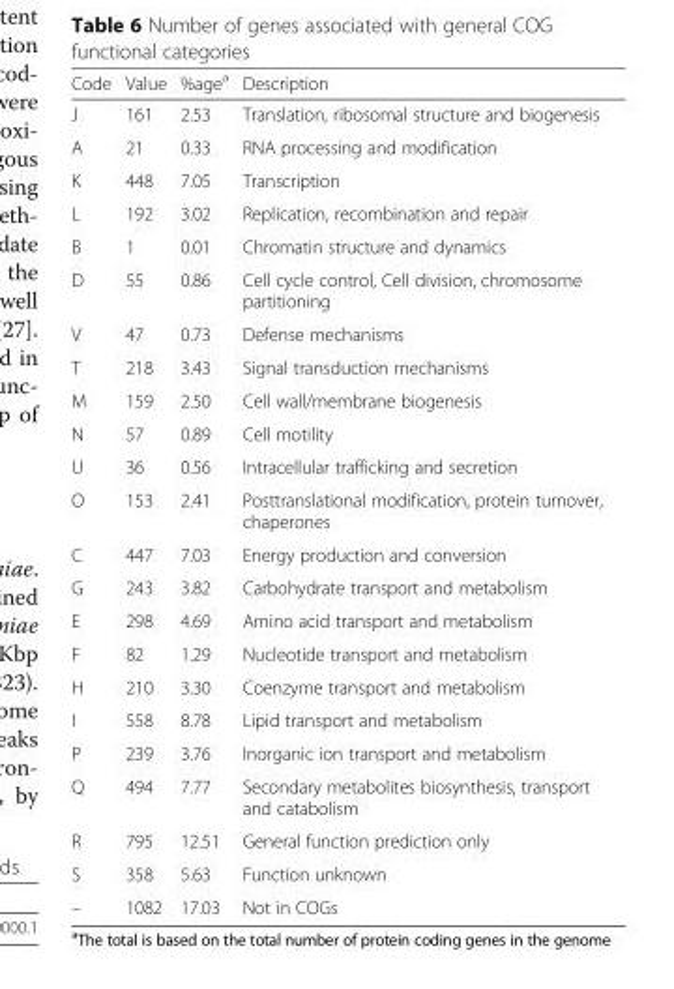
<table><thead><tr><td>Code</td><td>Value</td><td>%age<sup>a</sup></td><td>Description</td></tr></thead><tbody><tr><td>J</td><td>161</td><td>2.53</td><td>Translation, ribosomal structure and biogenesis</td></tr><tr><td>A</td><td>21</td><td>0.33</td><td>RNA processing and modification</td></tr><tr><td>K</td><td>448</td><td>7.05</td><td>Transcription</td></tr><tr><td>L</td><td>192</td><td>3.02</td><td>Replication, recombination and repair</td></tr><tr><td>B</td><td>1</td><td>0.01</td><td>Chromatin structure and dynamics</td></tr><tr><td>D</td><td>55</td><td>0.86</td><td>Cell cycle control, Cell division, chromosome partitioning</td></tr><tr><td>V</td><td>47</td><td>0.73</td><td>Defense mechanisms</td></tr><tr><td>T</td><td>218</td><td>3.43</td><td>Signal transduction mechanisms</td></tr><tr><td>M</td><td>159</td><td>2.50</td><td>Cell wall/membrane biogenesis</td></tr><tr><td>N</td><td>57</td><td>0.89</td><td>Cell motility</td></tr><tr><td>U</td><td>36</td><td>0.56</td><td>Intracellular trafficking and secretion</td></tr><tr><td>O</td><td>153</td><td>2.41</td><td>Posttranslational modification, protein turnover, chaperones</td></tr><tr><td>C</td><td>447</td><td>7.03</td><td>Energy production and conversion</td></tr><tr><td>G</td><td>243</td><td>3.82</td><td>Carbohydrate transport and metabolism</td></tr><tr><td>E</td><td>298</td><td>4.69</td><td>Amino acid transport and metabolism</td></tr><tr><td>F</td><td>82</td><td>1.29</td><td>Nucleotide transport and metabolism</td></tr><tr><td>H</td><td>210</td><td>3.30</td><td>Coenzyme transport and metabolism</td></tr><tr><td>I</td><td>558</td><td>8.78</td><td>Lipid transport and metabolism</td></tr><tr><td>P</td><td>239</td><td>3.76</td><td>Inorganic ion transport and metabolism</td></tr><tr><td>Q</td><td>494</td><td>7.77</td><td>Secondary metabolites biosynthesis, transport and catabolism</td></tr><tr><td>R</td><td>795</td><td>12.51</td><td>General function prediction only</td></tr><tr><td>S</td><td>358</td><td>5.63</td><td>Function unknown</td></tr><tr><td>–</td><td>1082</td><td>17.03</td><td>Not in COGs</td></tr></tbody></table>